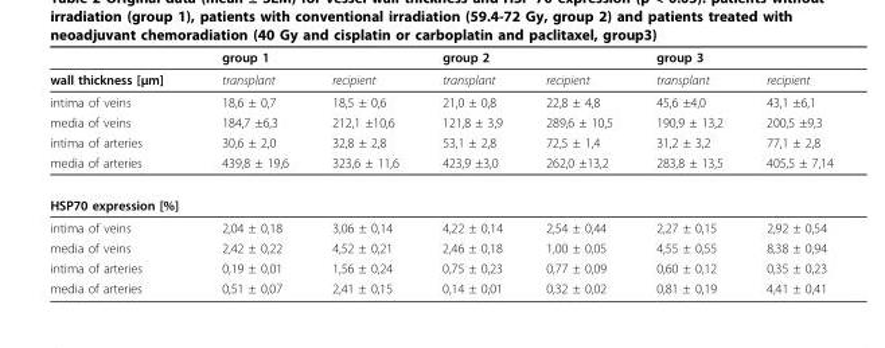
<table><thead><tr><td></td><td>group 1</td><td></td><td>group 2</td><td></td><td>group 3</td><td></td></tr></thead><tbody><tr><td>wall thickness [μm]</td><td>transplant</td><td>recipient</td><td>transplant</td><td>recipient</td><td>transplant</td><td>recipient</td></tr><tr><td>intima of veins</td><td>18,6 ± 0,7</td><td>18,5 ± 0,6</td><td>21,0 ± 0,8</td><td>22,8 ± 4,8</td><td>45,6 ±4,0</td><td>43,1 ±6,1</td></tr><tr><td>media of veins</td><td>184,7 ±6,3</td><td>212,1 ±10,6</td><td>121,8 ± 3,9</td><td>289,6 ± 10,5</td><td>190,9 ± 13,2</td><td>200,5 ±9,3</td></tr><tr><td>intima of arteries</td><td>30,6 ± 2,0</td><td>32,8 ± 2,8</td><td>53,1 ± 2,8</td><td>72,5 ± 1,4</td><td>31,2 ± 3,2</td><td>77,1 ± 2,8</td></tr><tr><td>media of arteries</td><td>439,8 ± 19,6</td><td>323,6 ± 11,6</td><td>423,9 ±3,0</td><td>262,0 ±13,2</td><td>283,8 ± 13,5</td><td>405,5 ± 7,14</td></tr><tr><td colspan="7">HSP70 expression [%]</td></tr><tr><td>intima of veins</td><td>2,04 ± 0,18</td><td>3,06 ± 0,14</td><td>4,22 ± 0,14</td><td>2,54 ± 0,44</td><td>2,27 ± 0,15</td><td>2,92 ± 0,54</td></tr><tr><td>media of veins</td><td>2,42 ± 0,22</td><td>4,52 ± 0,21</td><td>2,46 ± 0,18</td><td>1,00 ± 0,05</td><td>4,55 ± 0,55</td><td>8,38 ± 0,94</td></tr><tr><td>intima of arteries</td><td>0,19 ± 0,01</td><td>1,56 ± 0,24</td><td>0,75 ± 0,23</td><td>0,77 ± 0,09</td><td>0,60 ± 0,12</td><td>0,35 ± 0,23</td></tr><tr><td>media of arteries</td><td>0,51 ± 0,07</td><td>2,41 ± 0,15</td><td>0,14 ± 0,01</td><td>0,32 ± 0,02</td><td>0,81 ± 0,19</td><td>4,41 ± 0,41</td></tr></tbody></table>